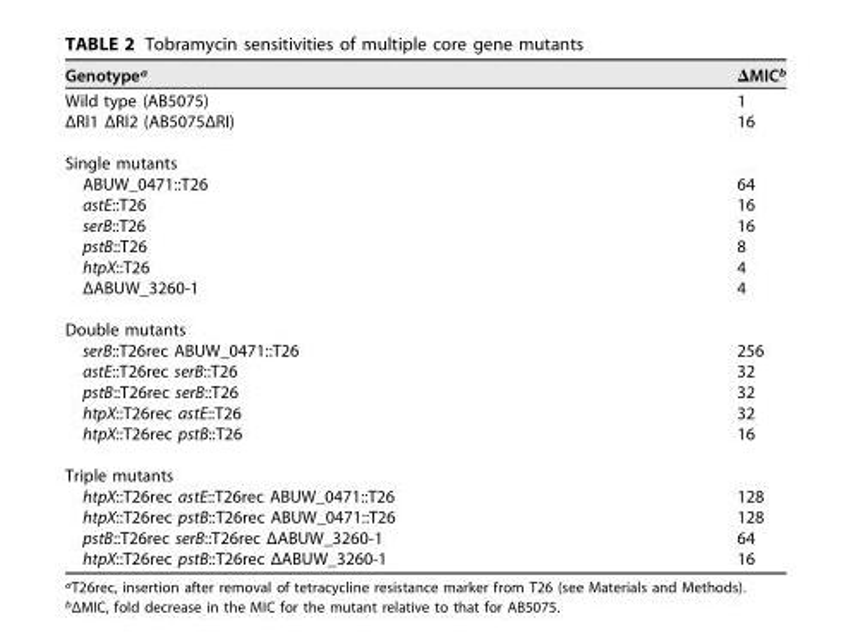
<table><thead><tr><td>Genotype<sup>a</sup></td><td>ΔMIC<sup>b</sup></td></tr></thead><tbody><tr><td>Wild type (AB5075)</td><td>1</td></tr><tr><td>ΔRI1 ΔRI2 (AB5075ΔRI)</td><td>16</td></tr><tr><td colspan="2">Single mutants</td></tr><tr><td>ABUW_0471::T26</td><td>64</td></tr><tr><td>astE::T26</td><td>16</td></tr><tr><td>serB::T26</td><td>16</td></tr><tr><td>pstB::T26</td><td>8</td></tr><tr><td>htpX::T26</td><td>4</td></tr><tr><td>ΔABUW_3260-1</td><td>4</td></tr><tr><td colspan="2">Double mutants</td></tr><tr><td>serB::T26rec ABUW_0471::T26</td><td>256</td></tr><tr><td>astE::T26rec serB::T26</td><td>32</td></tr><tr><td>pstB::T26rec serB::T26</td><td>32</td></tr><tr><td>htpX::T26rec astE::T26</td><td>32</td></tr><tr><td>htpX::T26rec pstB::T26</td><td>16</td></tr><tr><td colspan="2">Triple mutants</td></tr><tr><td>htpX::T26rec astE::T26rec ABUW_0471::T26</td><td>128</td></tr><tr><td>htpX::T26rec pstB::T26rec ABUW_0471::T26</td><td>128</td></tr><tr><td>pstB::T26rec serB::T26rec ΔABUW_3260-1</td><td>64</td></tr><tr><td>htpX::T26rec pstB::T26rec ΔABUW_3260-1</td><td>16</td></tr></tbody></table>